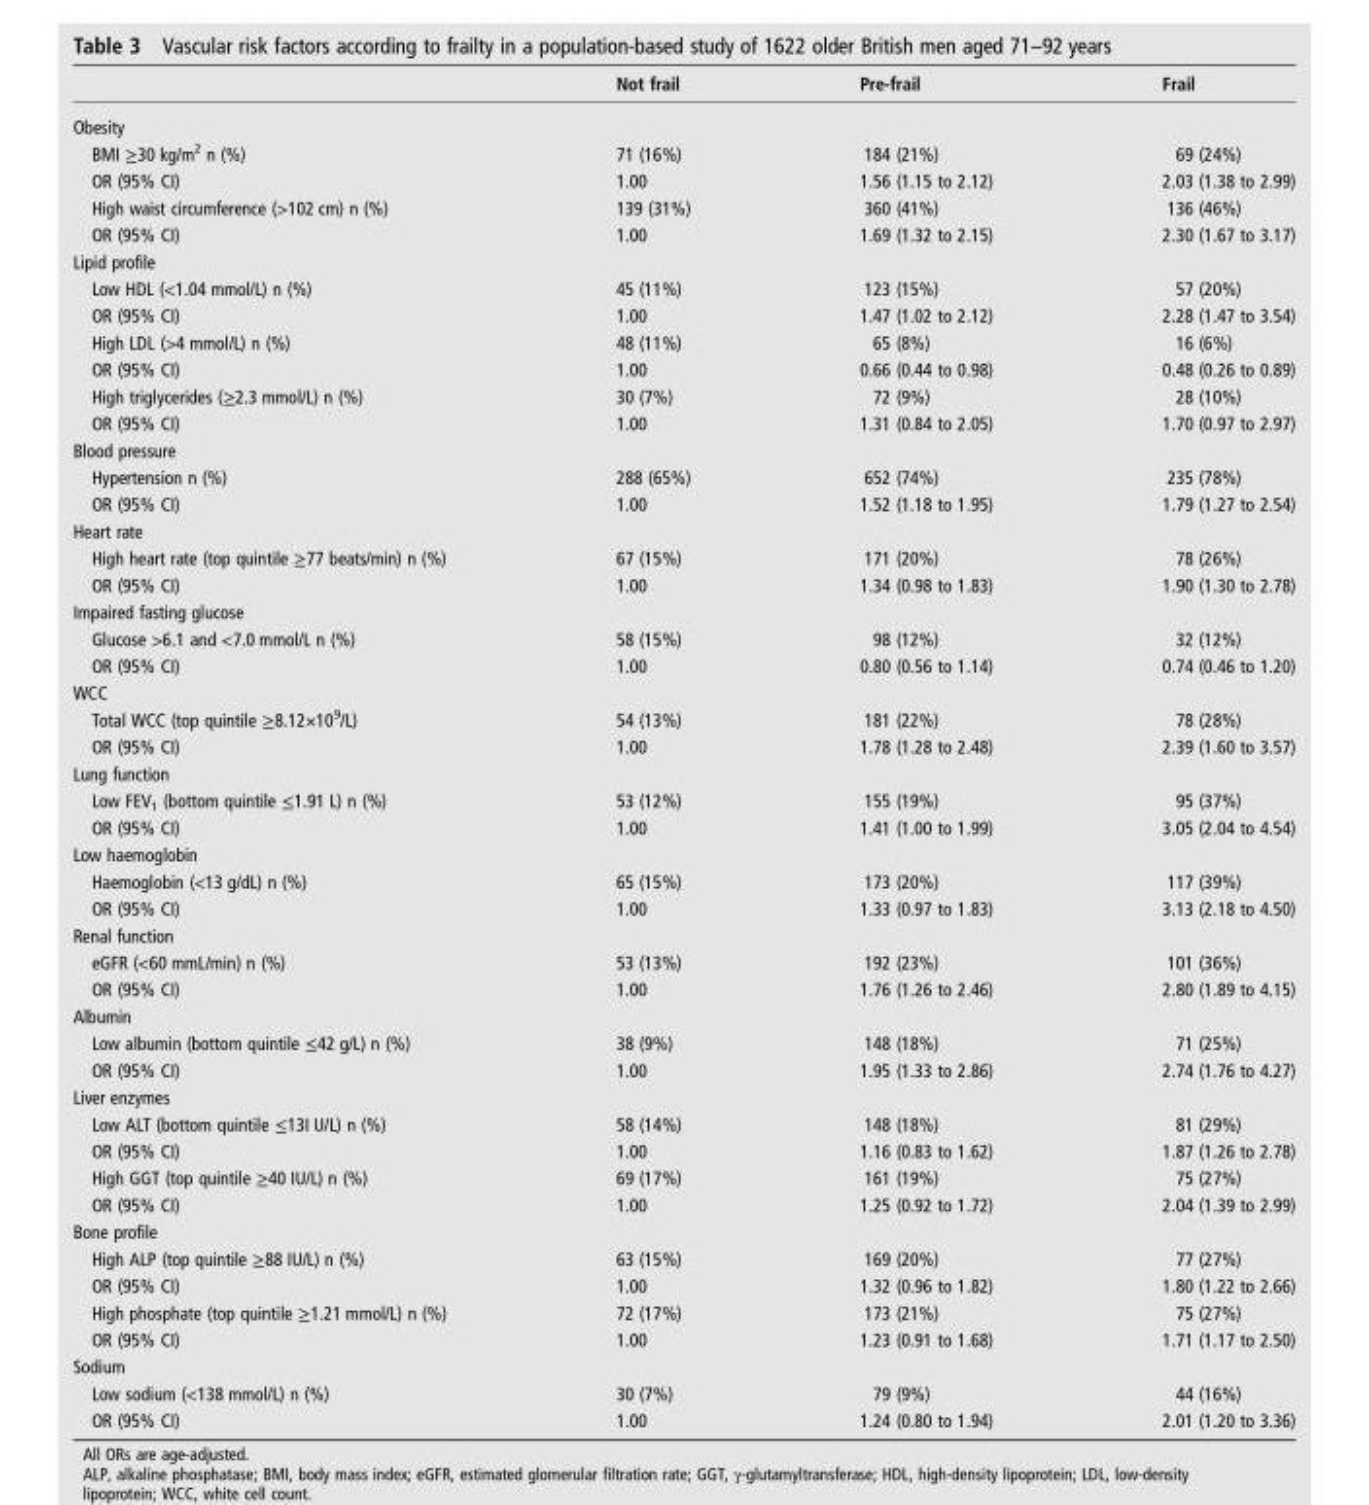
<table><thead><tr><td></td><td>Not frail</td><td>Pre-frail</td><td>Frail</td></tr></thead><tbody><tr><td colspan="4">Obesity</td></tr><tr><td>BMI ≥30 kg/m<sup>2</sup> n (%)</td><td>71 (16%)</td><td>184 (21%)</td><td>69 (24%)</td></tr><tr><td>OR (95% CI)</td><td>1.00</td><td>1.56 (1.15 to 2.12)</td><td>2.03 (1.38 to 2.99)</td></tr><tr><td>High waist circumference (&gt;102 cm) n (%)</td><td>139 (31%)</td><td>360 (41%)</td><td>136 (46%)</td></tr><tr><td>OR (95% CI)</td><td>1.00</td><td>1.69 (1.32 to 2.15)</td><td>2.30 (1.67 to 3.17)</td></tr><tr><td colspan="4">Lipid profile</td></tr><tr><td>Low HDL (&lt;1.04 mmol/L) n (%)</td><td>45 (11%)</td><td>123 (15%)</td><td>57 (20%)</td></tr><tr><td>OR (95% CI)</td><td>1.00</td><td>1.47 (1.02 to 2.12)</td><td>2.28 (1.47 to 3.54)</td></tr><tr><td>High LDL (&gt;4 mmol/L) n (%)</td><td>48 (11%)</td><td>65 (8%)</td><td>16 (6%)</td></tr><tr><td>OR (95% CI)</td><td>1.00</td><td>0.66 (0.44 to 0.98)</td><td>0.48 (0.26 to 0.89)</td></tr><tr><td>High triglycerides (≥2.3 mmol/L) n (%)</td><td>30 (7%)</td><td>72 (9%)</td><td>28 (10%)</td></tr><tr><td>OR (95% CI)</td><td>1.00</td><td>1.31 (0.84 to 2.05)</td><td>1.70 (0.97 to 2.97)</td></tr><tr><td colspan="4">Blood pressure</td></tr><tr><td>Hypertension n (%)</td><td>288 (65%)</td><td>652 (74%)</td><td>235 (78%)</td></tr><tr><td>OR (95% CI)</td><td>1.00</td><td>1.52 (1.18 to 1.95)</td><td>1.79 (1.27 to 2.54)</td></tr><tr><td colspan="4">Heart rate</td></tr><tr><td>High heart rate (top quintile ≥77 beats/min) n (%)</td><td>67 (15%)</td><td>171 (20%)</td><td>78 (26%)</td></tr><tr><td>OR (95% CI)</td><td>1.00</td><td>1.34 (0.98 to 1.83)</td><td>1.90 (1.30 to 2.78)</td></tr><tr><td colspan="4">Impaired fasting glucose</td></tr><tr><td>Glucose &gt;6.1 and &lt;7.0 mmol/L n (%)</td><td>58 (15%)</td><td>98 (12%)</td><td>32 (12%)</td></tr><tr><td>OR (95% CI)</td><td>1.00</td><td>0.80 (0.56 to 1.14)</td><td>0.74 (0.46 to 1.20)</td></tr><tr><td colspan="4">WCC</td></tr><tr><td>Total WCC (top quintile ≥8.12×10<sup>9</sup>/L)</td><td>54 (13%)</td><td>181 (22%)</td><td>78 (28%)</td></tr><tr><td>OR (95% CI)</td><td>1.00</td><td>1.78 (1.28 to 2.48)</td><td>2.39 (1.60 to 3.57)</td></tr><tr><td colspan="4">Lung function</td></tr><tr><td>Low FEV<sub>1</sub> (bottom quintile ≤1.91 L) n (%)</td><td>53 (12%)</td><td>155 (19%)</td><td>95 (37%)</td></tr><tr><td>OR (95% CI)</td><td>1.00</td><td>1.41 (1.00 to 1.99)</td><td>3.05 (2.04 to 4.54)</td></tr><tr><td colspan="4">Low haemoglobin</td></tr><tr><td>Haemoglobin (&lt;13 g/dL) n (%)</td><td>65 (15%)</td><td>173 (20%)</td><td>117 (39%)</td></tr><tr><td>OR (95% CI)</td><td>1.00</td><td>1.33 (0.97 to 1.83)</td><td>3.13 (2.18 to 4.50)</td></tr><tr><td colspan="4">Renal function</td></tr><tr><td>eGFR (&lt;60 mmL/min) n (%)</td><td>53 (13%)</td><td>192 (23%)</td><td>101 (36%)</td></tr><tr><td>OR (95% CI)</td><td>1.00</td><td>1.76 (1.26 to 2.46)</td><td>2.80 (1.89 to 4.15)</td></tr><tr><td colspan="4">Albumin</td></tr><tr><td>Low albumin (bottom quintile ≤42 g/L) n (%)</td><td>38 (9%)</td><td>148 (18%)</td><td>71 (25%)</td></tr><tr><td>OR (95% CI)</td><td>1.00</td><td>1.95 (1.33 to 2.86)</td><td>2.74 (1.76 to 4.27)</td></tr><tr><td colspan="4">Liver enzymes</td></tr><tr><td>Low ALT (bottom quintile ≤13I U/L) n (%)</td><td>58 (14%)</td><td>148 (18%)</td><td>81 (29%)</td></tr><tr><td>OR (95% CI)</td><td>1.00</td><td>1.16 (0.83 to 1.62)</td><td>1.87 (1.26 to 2.78)</td></tr><tr><td>High GGT (top quintile ≥40 IU/L) n (%)</td><td>69 (17%)</td><td>161 (19%)</td><td>75 (27%)</td></tr><tr><td>OR (95% CI)</td><td>1.00</td><td>1.25 (0.92 to 1.72)</td><td>2.04 (1.39 to 2.99)</td></tr><tr><td colspan="4">Bone profile</td></tr><tr><td>High ALP (top quintile ≥88 IU/L) n (%)</td><td>63 (15%)</td><td>169 (20%)</td><td>77 (27%)</td></tr><tr><td>OR (95% CI)</td><td>1.00</td><td>1.32 (0.96 to 1.82)</td><td>1.80 (1.22 to 2.66)</td></tr><tr><td>High phosphate (top quintile ≥1.21 mmol/L) n (%)</td><td>72 (17%)</td><td>173 (21%)</td><td>75 (27%)</td></tr><tr><td>OR (95% CI)</td><td>1.00</td><td>1.23 (0.91 to 1.68)</td><td>1.71 (1.17 to 2.50)</td></tr><tr><td colspan="4">Sodium</td></tr><tr><td>Low sodium (&lt;138 mmol/L) n (%)</td><td>30 (7%)</td><td>79 (9%)</td><td>44 (16%)</td></tr><tr><td>OR (95% CI)</td><td>1.00</td><td>1.24 (0.80 to 1.94)</td><td>2.01 (1.20 to 3.36)</td></tr></tbody></table>